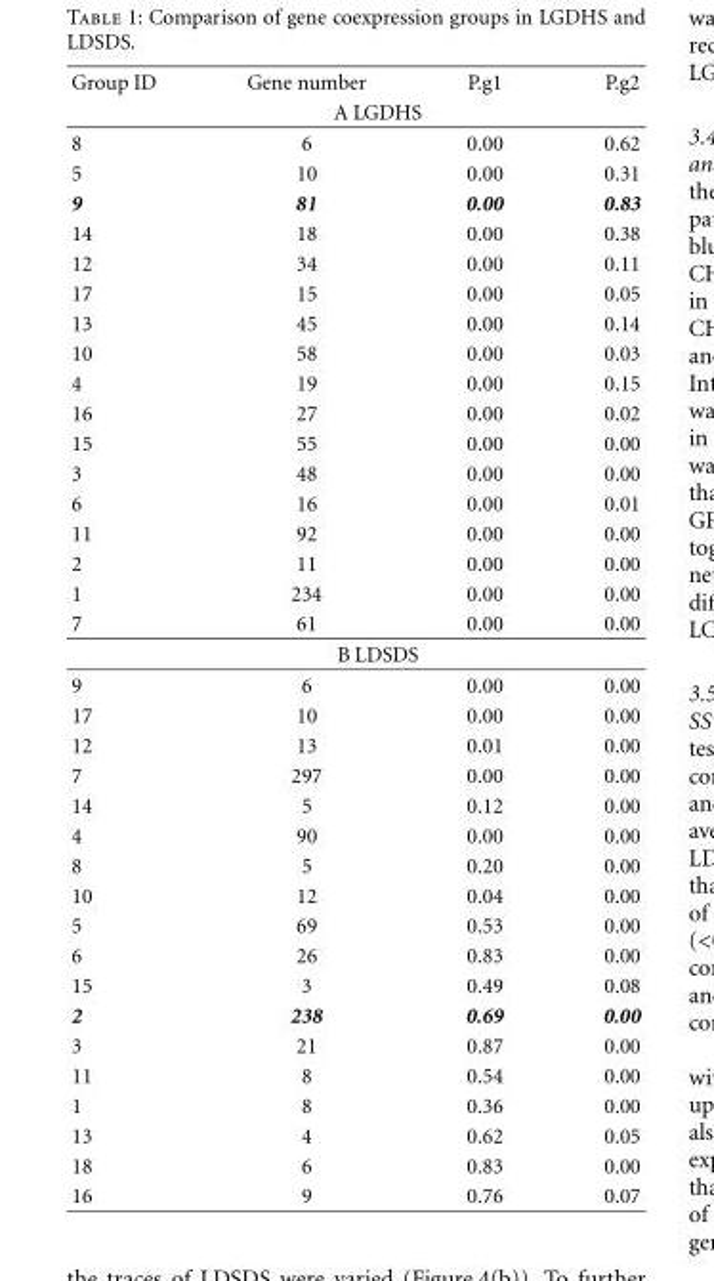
<table><thead><tr><td rowspan="2">Group ID</td><td>Gene number</td><td>P.g1</td><td rowspan="2">P.g2</td></tr><tr><td colspan="2">A LGDHS</td></tr></thead><tbody><tr><td>8</td><td>6</td><td>0.00</td><td>0.62</td></tr><tr><td>5</td><td>10</td><td>0.00</td><td>0.31</td></tr><tr><td>9</td><td>81</td><td>0.00</td><td>0.83</td></tr><tr><td>14</td><td>18</td><td>0.00</td><td>0.38</td></tr><tr><td>12</td><td>34</td><td>0.00</td><td>0.11</td></tr><tr><td>17</td><td>15</td><td>0.00</td><td>0.05</td></tr><tr><td>13</td><td>45</td><td>0.00</td><td>0.14</td></tr><tr><td>10</td><td>58</td><td>0.00</td><td>0.03</td></tr><tr><td>4</td><td>19</td><td>0.00</td><td>0.15</td></tr><tr><td>16</td><td>27</td><td>0.00</td><td>0.02</td></tr><tr><td>15</td><td>55</td><td>0.00</td><td>0.00</td></tr><tr><td>3</td><td>48</td><td>0.00</td><td>0.00</td></tr><tr><td>6</td><td>16</td><td>0.00</td><td>0.01</td></tr><tr><td>11</td><td>92</td><td>0.00</td><td>0.00</td></tr><tr><td>2</td><td>11</td><td>0.00</td><td>0.00</td></tr><tr><td>1</td><td>234</td><td>0.00</td><td>0.00</td></tr><tr><td rowspan="2">7</td><td>61</td><td>0.00</td><td>0.00</td></tr><tr><td colspan="2">B LDSDS</td><td></td></tr><tr><td>9</td><td>6</td><td>0.00</td><td>0.00</td></tr><tr><td>17</td><td>10</td><td>0.00</td><td>0.00</td></tr><tr><td>12</td><td>13</td><td>0.01</td><td>0.00</td></tr><tr><td>7</td><td>297</td><td>0.00</td><td>0.00</td></tr><tr><td>14</td><td>5</td><td>0.12</td><td>0.00</td></tr><tr><td>4</td><td>90</td><td>0.00</td><td>0.00</td></tr><tr><td>8</td><td>5</td><td>0.20</td><td>0.00</td></tr><tr><td>10</td><td>12</td><td>0.04</td><td>0.00</td></tr><tr><td>5</td><td>69</td><td>0.53</td><td>0.00</td></tr><tr><td>6</td><td>26</td><td>0.83</td><td>0.00</td></tr><tr><td>15</td><td>3</td><td>0.49</td><td>0.08</td></tr><tr><td>2</td><td>238</td><td>0.69</td><td>0.00</td></tr><tr><td>3</td><td>21</td><td>0.87</td><td>0.00</td></tr><tr><td>11</td><td>8</td><td>0.54</td><td>0.00</td></tr><tr><td>1</td><td>8</td><td>0.36</td><td>0.00</td></tr><tr><td>13</td><td>4</td><td>0.62</td><td>0.05</td></tr><tr><td>18</td><td>6</td><td>0.83</td><td>0.00</td></tr><tr><td>16</td><td>9</td><td>0.76</td><td>0.07</td></tr></tbody></table>